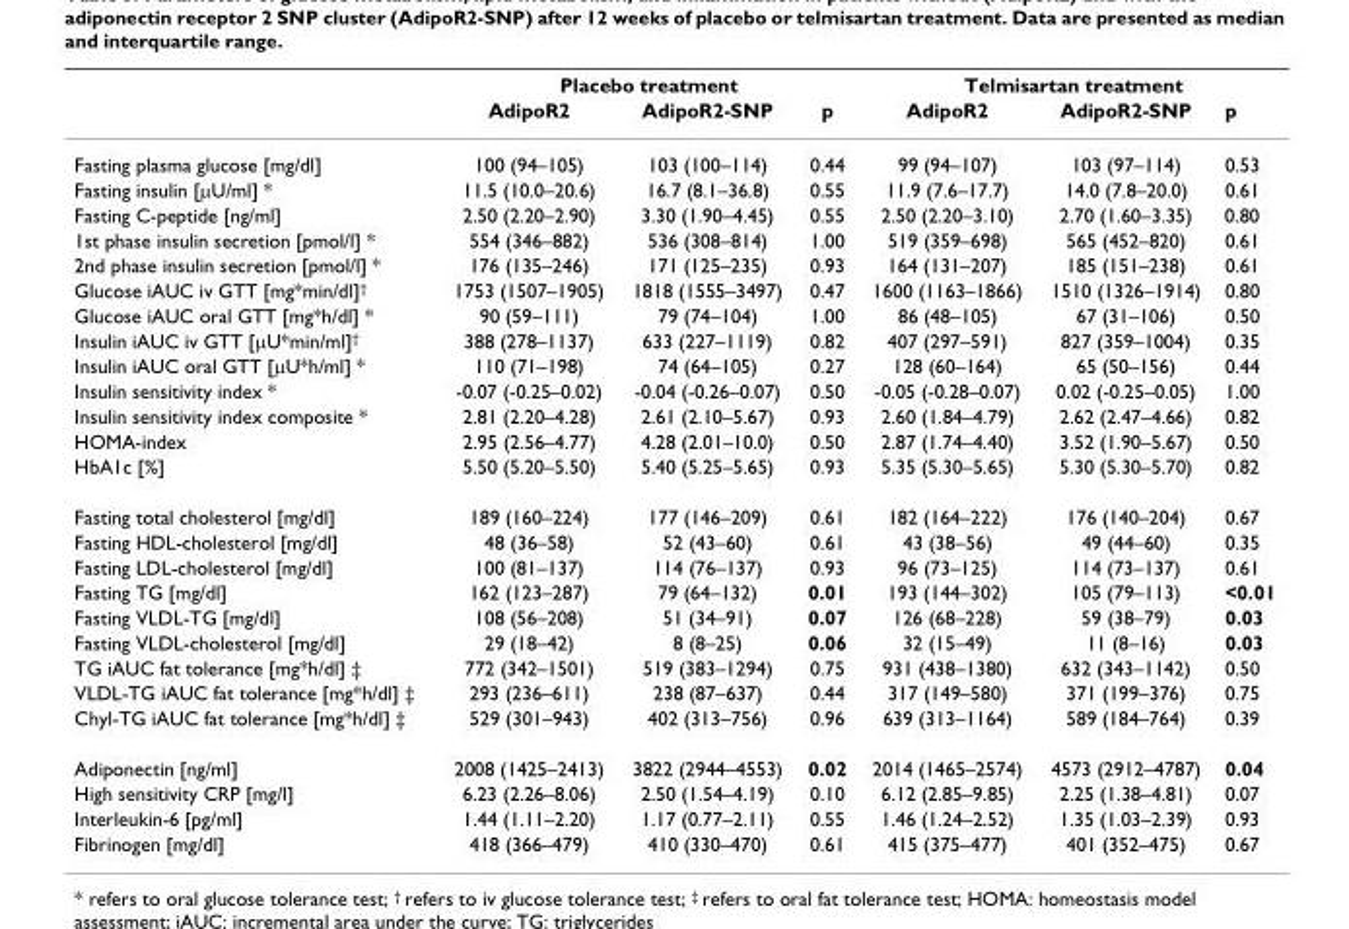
<table><thead><tr><td rowspan="2"></td><td colspan="3">Placebo treatment</td><td colspan="3">Telmisartan treatment</td></tr><tr><td>AdipoR2</td><td>AdipoR2-SNP</td><td>p</td><td>AdipoR2</td><td>AdipoR2-SNP</td><td>p</td></tr></thead><tbody><tr><td>Fasting plasma glucose [mg/dl]</td><td>100 (94–105)</td><td>103 (100–114)</td><td>0.44</td><td>99 (94–107)</td><td>103 (97–114)</td><td>0.53</td></tr><tr><td>Fasting insulin [µU/ml] *</td><td>11.5 (10.0–20.6)</td><td>16.7 (8.1–36.8)</td><td>0.55</td><td>11.9 (7.6–17.7)</td><td>14.0 (7.8–20.0)</td><td>0.61</td></tr><tr><td>Fasting C-peptide [ng/ml]</td><td>2.50 (2.20–2.90)</td><td>3.30 (1.90–4.45)</td><td>0.55</td><td>2.50 (2.20–3.10)</td><td>2.70 (1.60–3.35)</td><td>0.80</td></tr><tr><td>1st phase insulin secretion [pmol/l] *</td><td>554 (346–882)</td><td>536 (308–814)</td><td>1.00</td><td>519 (359–698)</td><td>565 (452–820)</td><td>0.61</td></tr><tr><td>2nd phase insulin secretion [pmol/l] *</td><td>176 (135–246)</td><td>171 (125–235)</td><td>0.93</td><td>164 (131–207)</td><td>185 (151–238)</td><td>0.61</td></tr><tr><td>Glucose iAUC iv GTT [mg*min/dl]<sup>†</sup></td><td>1753 (1507–1905)</td><td>1818 (1555–3497)</td><td>0.47</td><td>1600 (1163–1866)</td><td>1510 (1326–1914)</td><td>0.80</td></tr><tr><td>Glucose iAUC oral GTT [mg*h/dl] *</td><td>90 (59–111)</td><td>79 (74–104)</td><td>1.00</td><td>86 (48–105)</td><td>67 (31–106)</td><td>0.50</td></tr><tr><td>Insulin iAUC iv GTT [µU*min/ml]<sup>†</sup></td><td>388 (278–1137)</td><td>633 (227–1119)</td><td>0.82</td><td>407 (297–591)</td><td>827 (359–1004)</td><td>0.35</td></tr><tr><td>Insulin iAUC oral GTT [µU*h/ml] *</td><td>110 (71–198)</td><td>74 (64–105)</td><td>0.27</td><td>128 (60–164)</td><td>65 (50–156)</td><td>0.44</td></tr><tr><td>Insulin sensitivity index *</td><td>-0.07 (-0.25–0.02)</td><td>-0.04 (-0.26–0.07)</td><td>0.50</td><td>-0.05 (-0.28–0.07)</td><td>0.02 (-0.25–0.05)</td><td>1.00</td></tr><tr><td>Insulin sensitivity index composite *</td><td>2.81 (2.20–4.28)</td><td>2.61 (2.10–5.67)</td><td>0.93</td><td>2.60 (1.84–4.79)</td><td>2.62 (2.47–4.66)</td><td>0.82</td></tr><tr><td>HOMA-index</td><td>2.95 (2.56–4.77)</td><td>4.28 (2.01–10.0)</td><td>0.50</td><td>2.87 (1.74–4.40)</td><td>3.52 (1.90–5.67)</td><td>0.50</td></tr><tr><td>HbA1c [%]</td><td>5.50 (5.20–5.50)</td><td>5.40 (5.25–5.65)</td><td>0.93</td><td>5.35 (5.30–5.65)</td><td>5.30 (5.30–5.70)</td><td>0.82</td></tr><tr><td>Fasting total cholesterol [mg/dl]</td><td>189 (160–224)</td><td>177 (146–209)</td><td>0.61</td><td>182 (164–222)</td><td>176 (140–204)</td><td>0.67</td></tr><tr><td>Fasting HDL-cholesterol [mg/dl]</td><td>48 (36–58)</td><td>52 (43–60)</td><td>0.61</td><td>43 (38–56)</td><td>49 (44–60)</td><td>0.35</td></tr><tr><td>Fasting LDL-cholesterol [mg/dl]</td><td>100 (81–137)</td><td>114 (76–137)</td><td>0.93</td><td>96 (73–125)</td><td>114 (73–137)</td><td>0.61</td></tr><tr><td>Fasting TG [mg/dl]</td><td>162 (123–287)</td><td>79 (64–132)</td><td>0.01</td><td>193 (144–302)</td><td>105 (79–113)</td><td>&lt;0.01</td></tr><tr><td>Fasting VLDL-TG [mg/dl]</td><td>108 (56–208)</td><td>51 (34–91)</td><td>0.07</td><td>126 (68–228)</td><td>59 (38–79)</td><td>0.03</td></tr><tr><td>Fasting VLDL-cholesterol [mg/dl]</td><td>29 (18–42)</td><td>8 (8–25)</td><td>0.06</td><td>32 (15–49)</td><td>11 (8–16)</td><td>0.03</td></tr><tr><td>TG iAUC fat tolerance [mg*h/dl] ‡</td><td>772 (342–1501)</td><td>519 (383–1294)</td><td>0.75</td><td>931 (438–1380)</td><td>632 (343–1142)</td><td>0.50</td></tr><tr><td>VLDL-TG iAUC fat tolerance [mg*h/dl] ‡</td><td>293 (236–611)</td><td>238 (87–637)</td><td>0.44</td><td>317 (149–580)</td><td>371 (199–376)</td><td>0.75</td></tr><tr><td>Chyl-TG iAUC fat tolerance [mg*h/dl] ‡</td><td>529 (301–943)</td><td>402 (313–756)</td><td>0.96</td><td>639 (313–1164)</td><td>589 (184–764)</td><td>0.39</td></tr><tr><td>Adiponectin [ng/ml]</td><td>2008 (1425–2413)</td><td>3822 (2944–4553)</td><td>0.02</td><td>2014 (1465–2574)</td><td>4573 (2912–4787)</td><td>0.04</td></tr><tr><td>High sensitivity CRP [mg/l]</td><td>6.23 (2.26–8.06)</td><td>2.50 (1.54–4.19)</td><td>0.10</td><td>6.12 (2.85–9.85)</td><td>2.25 (1.38–4.81)</td><td>0.07</td></tr><tr><td>Interleukin-6 [pg/ml]</td><td>1.44 (1.11–2.20)</td><td>1.17 (0.77–2.11)</td><td>0.55</td><td>1.46 (1.24–2.52)</td><td>1.35 (1.03–2.39)</td><td>0.93</td></tr><tr><td>Fibrinogen [mg/dl]</td><td>418 (366–479)</td><td>410 (330–470)</td><td>0.61</td><td>415 (375–477)</td><td>401 (352–475)</td><td>0.67</td></tr></tbody></table>